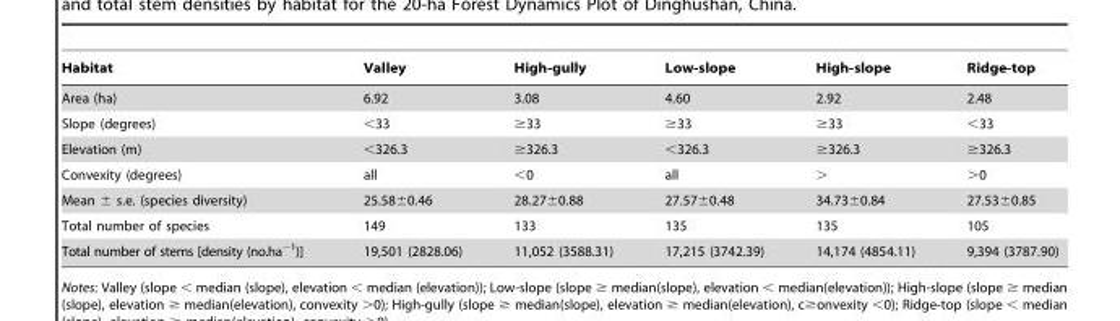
<table><thead><tr><td>Habitat</td><td>Valley</td><td>High-gully</td><td>Low-slope</td><td>High-slope</td><td>Ridge-top</td></tr></thead><tbody><tr><td>Area (ha)</td><td>6.92</td><td>3.08</td><td>4.60</td><td>2.92</td><td>2.48</td></tr><tr><td>Slope (degrees)</td><td>&lt;33</td><td>≥33</td><td>≥33</td><td>≥33</td><td>&lt;33</td></tr><tr><td>Elevation (m)</td><td>&lt;326.3</td><td>≥326.3</td><td>&lt;326.3</td><td>≥326.3</td><td>≥326.3</td></tr><tr><td>Convexity (degrees)</td><td>all</td><td>&lt;0</td><td>all</td><td>&gt;</td><td>&gt;0</td></tr><tr><td>Mean ± s.e. (species diversity)</td><td>25.58±0.46</td><td>28.27±0.88</td><td>27.57±0.48</td><td>34.73±0.84</td><td>27.53±0.85</td></tr><tr><td>Total number of species</td><td>149</td><td>133</td><td>135</td><td>135</td><td>105</td></tr><tr><td>Total number of stems [density (no.ha<sup>−1</sup>)]</td><td>19,501 (2828.06)</td><td>11,052 (3588.31)</td><td>17,215 (3742.39)</td><td>14,174 (4854.11)</td><td>9,394 (3787.90)</td></tr></tbody></table>